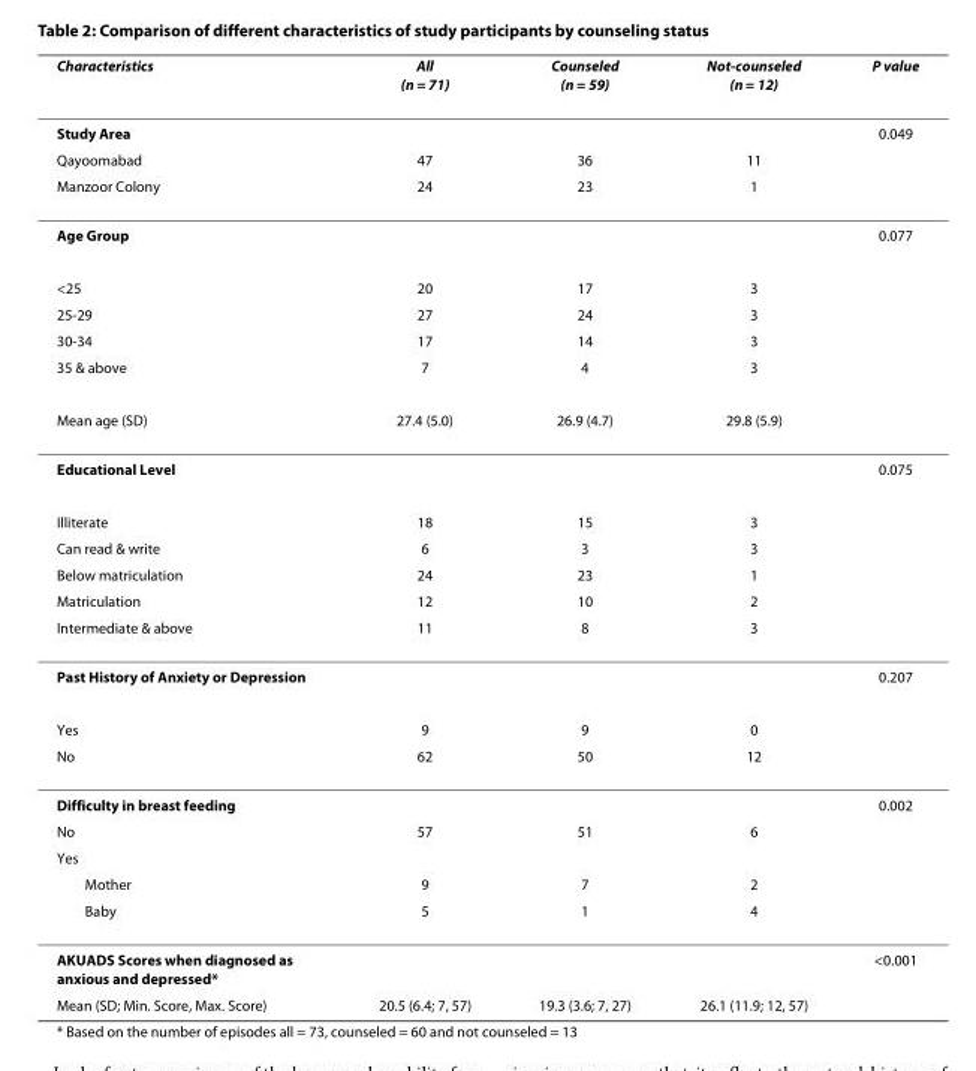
<table><thead><tr><td>Characteristics</td><td>All (n = 71)</td><td>Counseled (n = 59)</td><td>Not-counseled (n = 12)</td><td>P value</td></tr></thead><tbody><tr><td>Study Area</td><td></td><td></td><td></td><td>0.049</td></tr><tr><td>Qayoomabad</td><td>47</td><td>36</td><td>11</td><td></td></tr><tr><td>Manzoor Colony</td><td>24</td><td>23</td><td>1</td><td></td></tr><tr><td>Age Group</td><td></td><td></td><td></td><td>0.077</td></tr><tr><td>&lt;25</td><td>20</td><td>17</td><td>3</td><td></td></tr><tr><td>25-29</td><td>27</td><td>24</td><td>3</td><td></td></tr><tr><td>30-34</td><td>17</td><td>14</td><td>3</td><td></td></tr><tr><td>35 &amp; above</td><td>7</td><td>4</td><td>3</td><td></td></tr><tr><td>Mean age (SD)</td><td>27.4 (5.0)</td><td>26.9 (4.7)</td><td>29.8 (5.9)</td><td></td></tr><tr><td>Educational Level</td><td></td><td></td><td></td><td>0.075</td></tr><tr><td>Illiterate</td><td>18</td><td>15</td><td>3</td><td></td></tr><tr><td>Can read &amp; write</td><td>6</td><td>3</td><td>3</td><td></td></tr><tr><td>Below matriculation</td><td>24</td><td>23</td><td>1</td><td></td></tr><tr><td>Matriculation</td><td>12</td><td>10</td><td>2</td><td></td></tr><tr><td>Intermediate &amp; above</td><td>11</td><td>8</td><td>3</td><td></td></tr><tr><td>Past History of Anxiety or Depression</td><td></td><td></td><td></td><td>0.207</td></tr><tr><td>Yes</td><td>9</td><td>9</td><td>0</td><td></td></tr><tr><td>No</td><td>62</td><td>50</td><td>12</td><td></td></tr><tr><td>Difficulty in breast feeding</td><td></td><td></td><td></td><td>0.002</td></tr><tr><td>No</td><td>57</td><td>51</td><td>6</td><td></td></tr><tr><td colspan="5">Yes</td></tr><tr><td>Mother</td><td>9</td><td>7</td><td>2</td><td></td></tr><tr><td>Baby</td><td>5</td><td>1</td><td>4</td><td></td></tr><tr><td>AKUADS Scores when diagnosed as anxious and depressed*</td><td></td><td></td><td></td><td>&lt;0.001</td></tr><tr><td>Mean (SD; Min. Score, Max. Score)</td><td>20.5 (6.4; 7, 57)</td><td>19.3 (3.6; 7, 27)</td><td>26.1 (11.9; 12, 57)</td><td></td></tr></tbody></table>